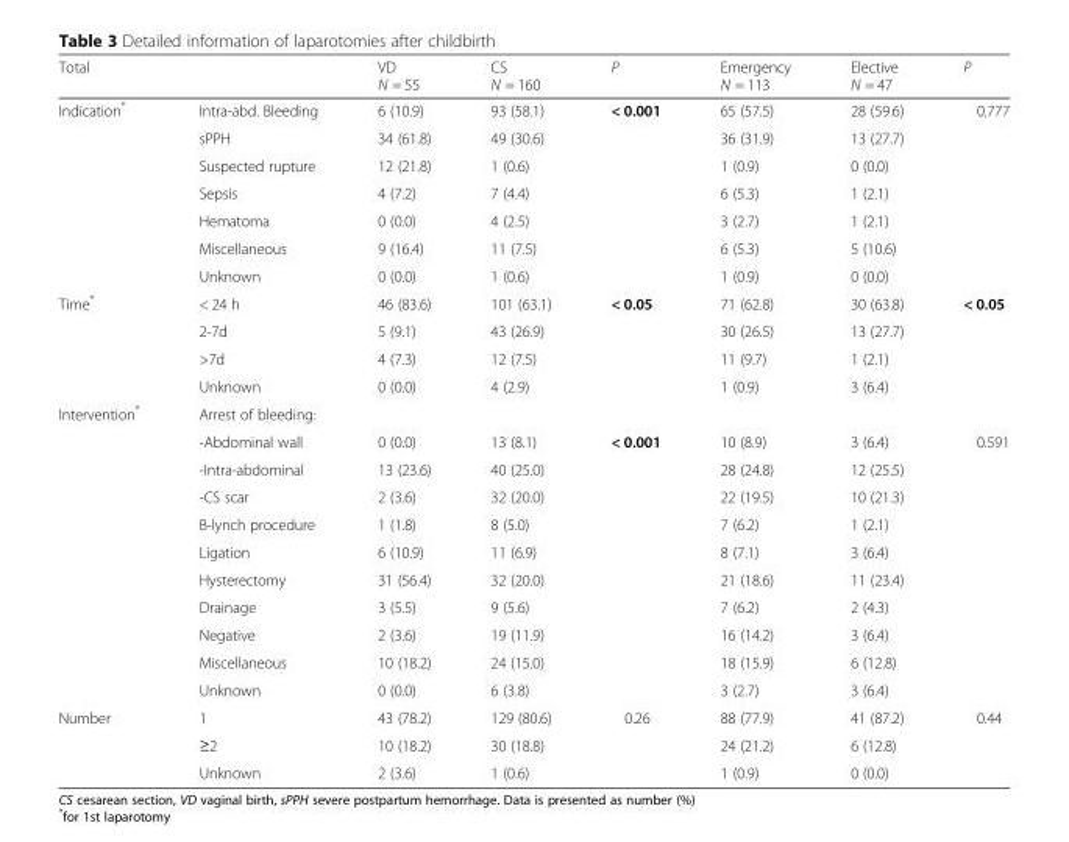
<table><thead><tr><td>Total</td><td></td><td>VD N = 55</td><td>CS N = 160</td><td>P</td><td>Emergency N = 113</td><td>Elective N = 47</td><td>P</td></tr></thead><tbody><tr><td rowspan="7">Indication*</td><td>Intra-abd. Bleeding</td><td>6 (10.9)</td><td>93 (58.1)</td><td rowspan="7">&lt; 0.001</td><td>65 (57.5)</td><td>28 (59.6)</td><td rowspan="7">0.777</td></tr><tr><td>sPPH</td><td>34 (61.8)</td><td>49 (30.6)</td><td>36 (31.9)</td><td>13 (27.7)</td></tr><tr><td>Suspected rupture</td><td>12 (21.8)</td><td>1 (0.6)</td><td>1 (0.9)</td><td>0 (0.0)</td></tr><tr><td>Sepsis</td><td>4 (7.2)</td><td>7 (4.4)</td><td>6 (5.3)</td><td>1 (2.1)</td></tr><tr><td>Hematoma</td><td>0 (0.0)</td><td>4 (2.5)</td><td>3 (2.7)</td><td>1 (2.1)</td></tr><tr><td>Miscellaneous</td><td>9 (16.4)</td><td>11 (7.5)</td><td>6 (5.3)</td><td>5 (10.6)</td></tr><tr><td>Unknown</td><td>0 (0.0)</td><td>1 (0.6)</td><td>1 (0.9)</td><td>0 (0.0)</td></tr><tr><td rowspan="4">Time*</td><td>&lt; 24 h</td><td>46 (83.6)</td><td>101 (63.1)</td><td rowspan="4">&lt; 0.05</td><td>71 (62.8)</td><td>30 (63.8)</td><td rowspan="4">&lt; 0.05</td></tr><tr><td>2-7d</td><td>5 (9.1)</td><td>43 (26.9)</td><td>30 (26.5)</td><td>13 (27.7)</td></tr><tr><td>&gt;7d</td><td>4 (7.3)</td><td>12 (7.5)</td><td>11 (9.7)</td><td>1 (2.1)</td></tr><tr><td>Unknown</td><td>0 (0.0)</td><td>4 (2.9)</td><td>1 (0.9)</td><td>3 (6.4)</td></tr><tr><td rowspan="11">Intervention*</td><td colspan="7">Arrest of bleeding:</td></tr><tr><td>-Abdominal wall</td><td>0 (0.0)</td><td>13 (8.1)</td><td rowspan="10">&lt; 0.001</td><td>10 (8.9)</td><td>3 (6.4)</td><td rowspan="10">0.591</td></tr><tr><td>-Intra-abdominal</td><td>13 (23.6)</td><td>40 (25.0)</td><td>28 (24.8)</td><td>12 (25.5)</td></tr><tr><td>-CS scar</td><td>2 (3.6)</td><td>32 (20.0)</td><td>22 (19.5)</td><td>10 (21.3)</td></tr><tr><td>B-lynch procedure</td><td>1 (1.8)</td><td>8 (5.0)</td><td>7 (6.2)</td><td>1 (2.1)</td></tr><tr><td>Ligation</td><td>6 (10.9)</td><td>11 (6.9)</td><td>8 (7.1)</td><td>3 (6.4)</td></tr><tr><td>Hysterectomy</td><td>31 (56.4)</td><td>32 (20.0)</td><td>21 (18.6)</td><td>11 (23.4)</td></tr><tr><td>Drainage</td><td>3 (5.5)</td><td>9 (5.6)</td><td>7 (6.2)</td><td>2 (4.3)</td></tr><tr><td>Negative</td><td>2 (3.6)</td><td>19 (11.9)</td><td>16 (14.2)</td><td>3 (6.4)</td></tr><tr><td>Miscellaneous</td><td>10 (18.2)</td><td>24 (15.0)</td><td>18 (15.9)</td><td>6 (12.8)</td></tr><tr><td>Unknown</td><td>0 (0.0)</td><td>6 (3.8)</td><td>3 (2.7)</td><td>3 (6.4)</td></tr><tr><td rowspan="3">Number</td><td>1</td><td>43 (78.2)</td><td>129 (80.6)</td><td rowspan="3">0.26</td><td>88 (77.9)</td><td>41 (87.2)</td><td rowspan="3">0.44</td></tr><tr><td>≥2</td><td>10 (18.2)</td><td>30 (18.8)</td><td>24 (21.2)</td><td>6 (12.8)</td></tr><tr><td>Unknown</td><td>2 (3.6)</td><td>1 (0.6)</td><td>1 (0.9)</td><td>0 (0.0)</td></tr></tbody></table>